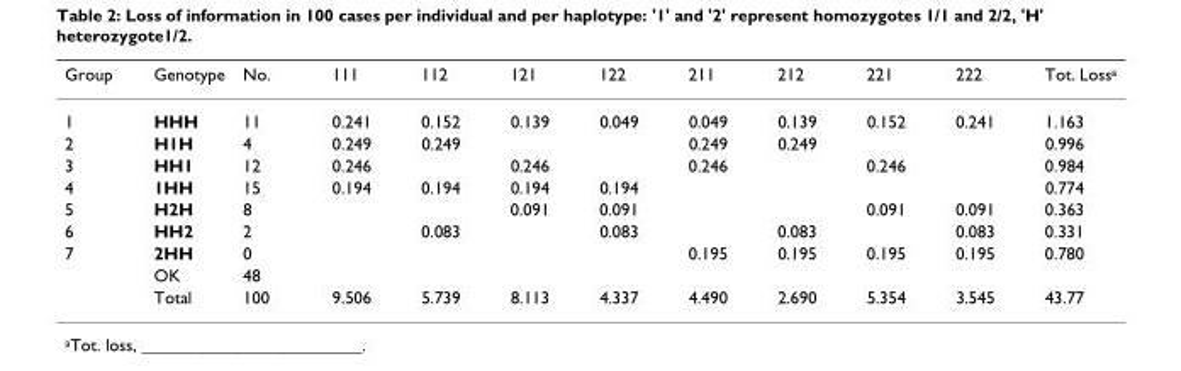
<table><thead><tr><td>Group</td><td>Genotype</td><td>No.</td><td>111</td><td>112</td><td>121</td><td>122</td><td>211</td><td>212</td><td>221</td><td>222</td><td>Tot. Lossa</td></tr></thead><tbody><tr><td>1</td><td>HHH</td><td>11</td><td>0.241</td><td>0.152</td><td>0.139</td><td>0.049</td><td>0.049</td><td>0.139</td><td>0.152</td><td>0.241</td><td>1.163</td></tr><tr><td>2</td><td>H1H</td><td>4</td><td>0.249</td><td>0.249</td><td></td><td></td><td>0.249</td><td>0.249</td><td></td><td></td><td>0.996</td></tr><tr><td>3</td><td>HH1</td><td>12</td><td>0.246</td><td></td><td>0.246</td><td></td><td>0.246</td><td></td><td>0.246</td><td></td><td>0.984</td></tr><tr><td>4</td><td>1HH</td><td>15</td><td>0.194</td><td>0.194</td><td>0.194</td><td>0.194</td><td></td><td></td><td></td><td></td><td>0.774</td></tr><tr><td>5</td><td>H2H</td><td>8</td><td></td><td></td><td>0.091</td><td>0.091</td><td></td><td></td><td>0.091</td><td>0.091</td><td>0.363</td></tr><tr><td>6</td><td>HH2</td><td>2</td><td></td><td>0.083</td><td></td><td>0.083</td><td></td><td>0.083</td><td></td><td>0.083</td><td>0.331</td></tr><tr><td rowspan="3">7</td><td>2HH</td><td>0</td><td></td><td></td><td></td><td></td><td>0.195</td><td>0.195</td><td>0.195</td><td>0.195</td><td>0.780</td></tr><tr><td>OK</td><td>48</td><td></td><td></td><td></td><td></td><td></td><td></td><td></td><td></td><td></td></tr><tr><td>Total</td><td>100</td><td>9.506</td><td>5.739</td><td>8.113</td><td>4.337</td><td>4.490</td><td>2.690</td><td>5.354</td><td>3.545</td><td>43.77</td></tr></tbody></table>